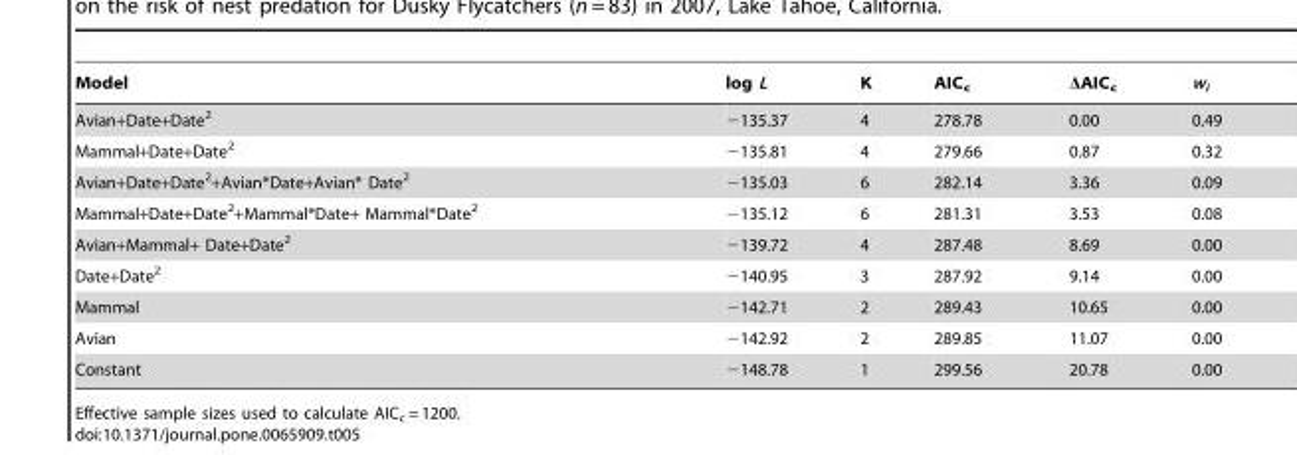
<table><thead><tr><td>Model</td><td>log L</td><td>K</td><td>AIC<sub>c</sub></td><td>ΔAIC<sub>c</sub></td><td>w<sub>i</sub></td></tr></thead><tbody><tr><td>Avian+Date+Date<sup>2</sup></td><td>−135.37</td><td>4</td><td>278.78</td><td>0.00</td><td>0.49</td></tr><tr><td>Mammal+Date+Date<sup>2</sup></td><td>−135.81</td><td>4</td><td>279.66</td><td>0.87</td><td>0.32</td></tr><tr><td>Avian+Date+Date<sup>2</sup>+Avian*Date+Avian* Date<sup>2</sup></td><td>−135.03</td><td>6</td><td>282.14</td><td>3.36</td><td>0.09</td></tr><tr><td>Mammal+Date+Date<sup>2</sup>+Mammal*Date+ Mammal*Date<sup>2</sup></td><td>−135.12</td><td>6</td><td>281.31</td><td>3.53</td><td>0.08</td></tr><tr><td>Avian+Mammal+ Date+Date<sup>2</sup></td><td>−139.72</td><td>4</td><td>287.48</td><td>8.69</td><td>0.00</td></tr><tr><td>Date+Date<sup>2</sup></td><td>−140.95</td><td>3</td><td>287.92</td><td>9.14</td><td>0.00</td></tr><tr><td>Mammal</td><td>−142.71</td><td>2</td><td>289.43</td><td>10.65</td><td>0.00</td></tr><tr><td>Avian</td><td>−142.92</td><td>2</td><td>289.85</td><td>11.07</td><td>0.00</td></tr><tr><td>Constant</td><td>−148.78</td><td>1</td><td>299.56</td><td>20.78</td><td>0.00</td></tr></tbody></table>